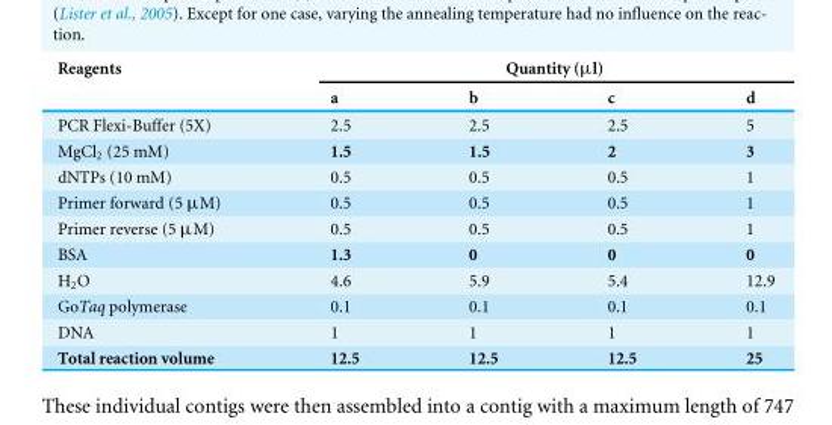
<table><thead><tr><td rowspan="2">Reagents</td><td colspan="4">Quantity (µl)</td></tr><tr><td>a</td><td>b</td><td>c</td><td>d</td></tr></thead><tbody><tr><td>PCR Flexi-Buffer (5X)</td><td>2.5</td><td>2.5</td><td>2.5</td><td>5</td></tr><tr><td>MgCl<sub>2</sub> (25 mM)</td><td>1.5</td><td>1.5</td><td>2</td><td>3</td></tr><tr><td>dNTPs (10 mM)</td><td>0.5</td><td>0.5</td><td>0.5</td><td>1</td></tr><tr><td>Primer forward (5 µM)</td><td>0.5</td><td>0.5</td><td>0.5</td><td>1</td></tr><tr><td>Primer reverse (5 µM)</td><td>0.5</td><td>0.5</td><td>0.5</td><td>1</td></tr><tr><td>BSA</td><td>1.3</td><td>0</td><td>0</td><td>0</td></tr><tr><td>H<sub>2</sub>O</td><td>4.6</td><td>5.9</td><td>5.4</td><td>12.9</td></tr><tr><td>GoTaq polymerase</td><td>0.1</td><td>0.1</td><td>0.1</td><td>0.1</td></tr><tr><td>DNA</td><td>1</td><td>1</td><td>1</td><td>1</td></tr><tr><td>Total reaction volume</td><td>12.5</td><td>12.5</td><td>12.5</td><td>25</td></tr></tbody></table>